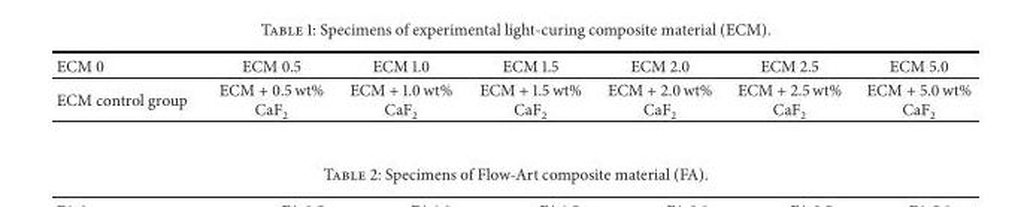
<table><thead><tr><td>ECM 0</td><td>ECM 0.5</td><td>ECM 1.0</td><td>ECM 1.5</td><td>ECM 2.0</td><td>ECM 2.5</td><td>ECM 5.0</td></tr></thead><tbody><tr><td>ECM control group</td><td>ECM + 0.5 wt% CaF<sub>2</sub></td><td>ECM + 1.0 wt% CaF<sub>2</sub></td><td>ECM + 1.5 wt% CaF<sub>2</sub></td><td>ECM + 2.0 wt% CaF<sub>2</sub></td><td>ECM + 2.5 wt% CaF<sub>2</sub></td><td>ECM + 5.0 wt% CaF<sub>2</sub></td></tr></tbody></table>